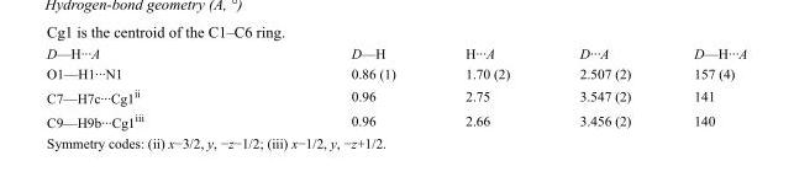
<table><tbody><tr><td>D—H···A</td><td>D—H</td><td>H···A</td><td>D···A</td><td>D—H···A</td></tr><tr><td>O1—H1···N1</td><td>0.86 (1)</td><td>1.70 (2)</td><td>2.507 (2)</td><td>157 (4)</td></tr><tr><td>C7—H7c···Cg1<sup>ii</sup></td><td>0.96</td><td>2.75</td><td>3.547 (2)</td><td>141</td></tr><tr><td>C9—H9b···Cg1<sup>iii</sup></td><td>0.96</td><td>2.66</td><td>3.456 (2)</td><td>140</td></tr></tbody></table>